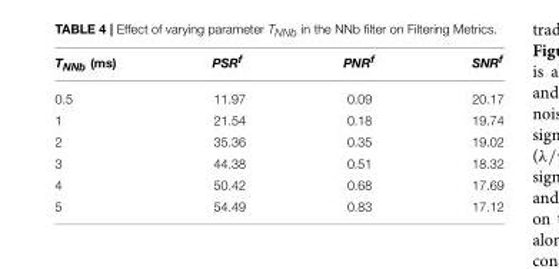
<table><thead><tr><td>T<sub>NNb</sub> (ms)</td><td>PSR<sup>f</sup></td><td>PNR<sup>f</sup></td><td>SNR<sup>f</sup></td></tr></thead><tbody><tr><td>0.5</td><td>11.97</td><td>0.09</td><td>20.17</td></tr><tr><td>1</td><td>21.54</td><td>0.18</td><td>19.74</td></tr><tr><td>2</td><td>35.36</td><td>0.35</td><td>19.02</td></tr><tr><td>3</td><td>44.38</td><td>0.51</td><td>18.32</td></tr><tr><td>4</td><td>50.42</td><td>0.68</td><td>17.69</td></tr><tr><td>5</td><td>54.49</td><td>0.83</td><td>17.12</td></tr></tbody></table>